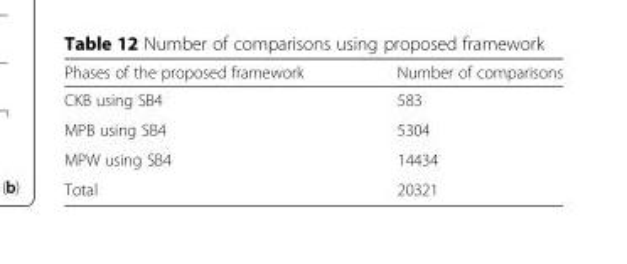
<table><thead><tr><td>Phases of the proposed framework</td><td>Number of comparisons</td></tr></thead><tbody><tr><td>CKB using SB4</td><td>583</td></tr><tr><td>MPB using SB4</td><td>5304</td></tr><tr><td>MPW using SB4</td><td>14434</td></tr><tr><td>Total</td><td>20321</td></tr></tbody></table>